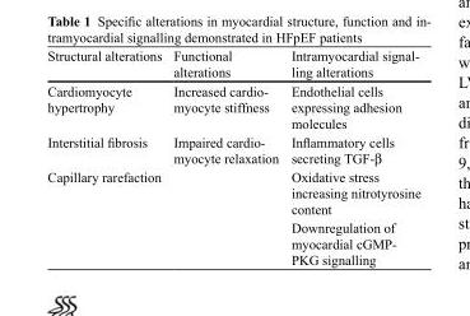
<table><thead><tr><td>Structural alterations</td><td>Functional alterations</td><td>Intramyocardial signal- ling alterations</td></tr></thead><tbody><tr><td>Cardiomyocyte hypertrophy</td><td>Increased cardio- myocyte stiffness</td><td>Endothelial cells expressing adhesion molecules</td></tr><tr><td>Interstitial fibrosis</td><td>Impaired cardio- myocyte relaxation</td><td>Inflammatory cells secreting TGF-β</td></tr><tr><td rowspan="2">Capillary rarefaction</td><td></td><td>Oxidative stress increasing nitrotyrosine content</td></tr><tr><td></td><td>Downregulation of myocardial cGMP- PKG signalling</td></tr></tbody></table>